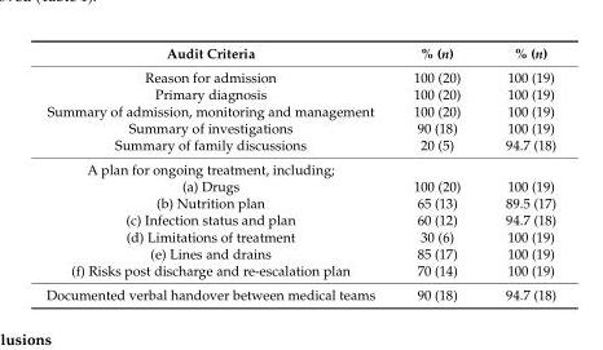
<table><tbody><tr><td>Audit Criteria</td><td>% (n)</td><td>% (n)</td></tr><tr><td>Reason for admission</td><td>100 (20)</td><td>100 (19)</td></tr><tr><td>Primary diagnosis</td><td>100 (20)</td><td>100 (19)</td></tr><tr><td>Summary of admission, monitoring and management</td><td>100 (20)</td><td>100 (19)</td></tr><tr><td>Summary of investigations</td><td>90 (18)</td><td>100 (19)</td></tr><tr><td>Summary of family discussions</td><td>20 (5)</td><td>94.7 (18)</td></tr><tr><td colspan="3">A plan for ongoing treatment, including;</td></tr><tr><td>(a) Drugs</td><td>100 (20)</td><td>100 (19)</td></tr><tr><td>(b) Nutrition plan</td><td>65 (13)</td><td>89.5 (17)</td></tr><tr><td>(c) Infection status and plan</td><td>60 (12)</td><td>94.7 (18)</td></tr><tr><td>(d) Limitations of treatment</td><td>30 (6)</td><td>100 (19)</td></tr><tr><td>(e) Lines and drains</td><td>85 (17)</td><td>100 (19)</td></tr><tr><td>(f) Risks post discharge and re-escalation plan</td><td>70 (14)</td><td>100 (19)</td></tr><tr><td>Documented verbal handover between medical teams</td><td>90 (18)</td><td>94.7 (18)</td></tr></tbody></table>